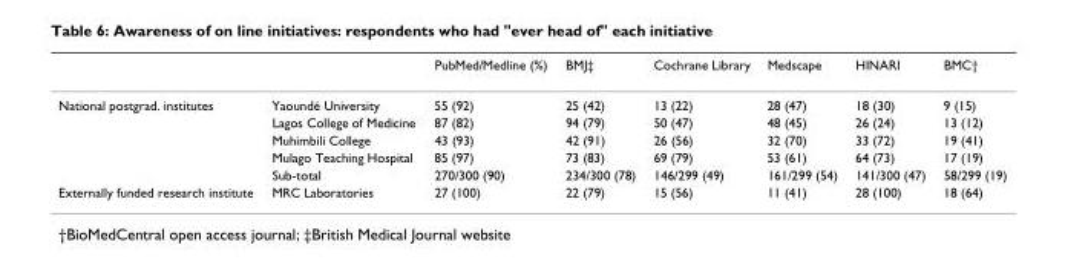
<table><thead><tr><td></td><td></td><td>PubMed/Medline (%)</td><td>BMJ‡</td><td>Cochrane Library</td><td>Medscape</td><td>HINARI</td><td>BMC†</td></tr></thead><tbody><tr><td rowspan="5">National postgrad. institutes</td><td>Yaoundé University</td><td>55 (92)</td><td>25 (42)</td><td>13 (22)</td><td>28 (47)</td><td>18 (30)</td><td>9 (15)</td></tr><tr><td>Lagos College of Medicine</td><td>87 (82)</td><td>94 (79)</td><td>50 (47)</td><td>48 (45)</td><td>26 (24)</td><td>13 (12)</td></tr><tr><td>Muhimbili College</td><td>43 (93)</td><td>42 (91)</td><td>26 (56)</td><td>32 (70)</td><td>33 (72)</td><td>19 (41)</td></tr><tr><td>Mulago Teaching Hospital</td><td>85 (97)</td><td>73 (83)</td><td>69 (79)</td><td>53 (61)</td><td>64 (73)</td><td>17 (19)</td></tr><tr><td>Sub-total</td><td>270/300 (90)</td><td>234/300 (78)</td><td>146/299 (49)</td><td>161/299 (54)</td><td>141/300 (47)</td><td>58/299 (19)</td></tr><tr><td>Externally funded research institute</td><td>MRC Laboratories</td><td>27 (100)</td><td>22 (79)</td><td>15 (56)</td><td>11 (41)</td><td>28 (100)</td><td>18 (64)</td></tr></tbody></table>